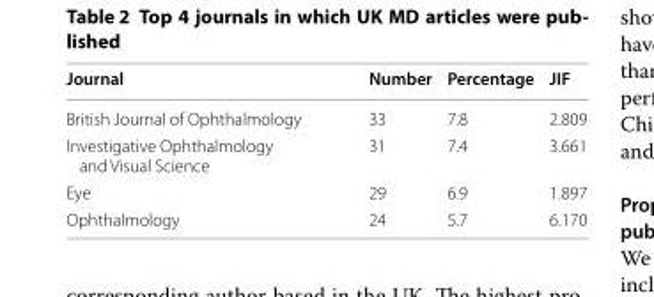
<table><thead><tr><td>Journal</td><td>Number</td><td>Percentage</td><td>JIF</td></tr></thead><tbody><tr><td>British Journal of Ophthalmology</td><td>33</td><td>7.8</td><td>2.809</td></tr><tr><td>Investigative Ophthalmology and Visual Science</td><td>31</td><td>7.4</td><td>3.661</td></tr><tr><td>Eye</td><td>29</td><td>6.9</td><td>1.897</td></tr><tr><td>Ophthalmology</td><td>24</td><td>5.7</td><td>6.170</td></tr></tbody></table>